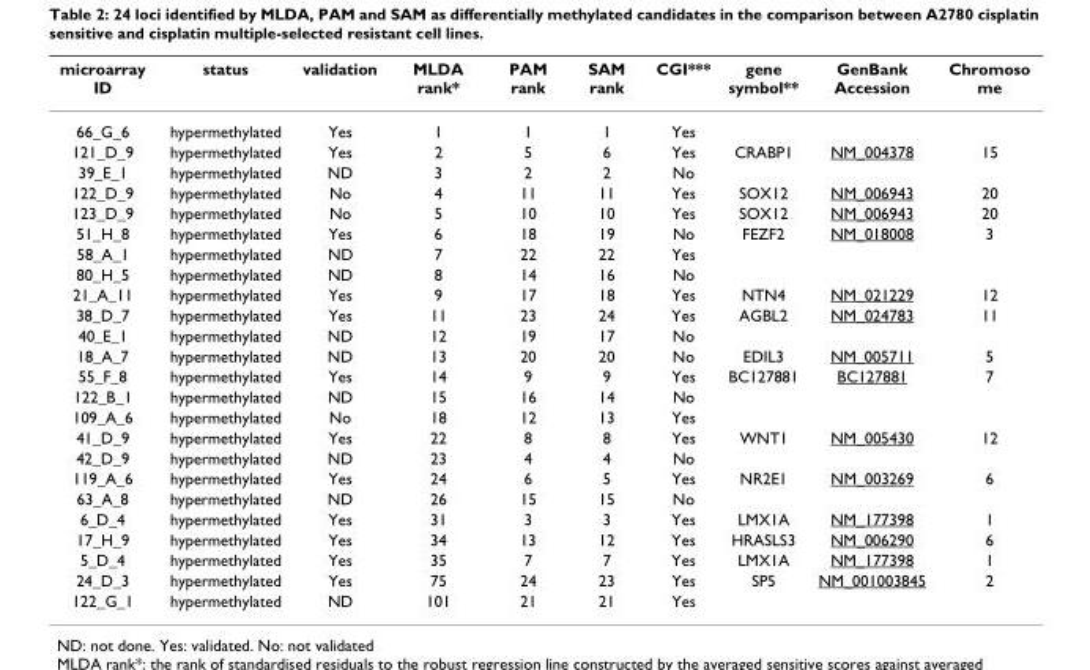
<table><thead><tr><td>microarray ID</td><td>status</td><td>validation</td><td>MLDA rank*</td><td>PAM rank</td><td>SAM rank</td><td>CGI***</td><td>gene symbol**</td><td>GenBank Accession</td><td>Chromoso me</td></tr></thead><tbody><tr><td>66_G_6</td><td>hypermethylated</td><td>Yes</td><td>1</td><td>1</td><td>1</td><td>Yes</td><td></td><td></td><td></td></tr><tr><td>121_D_9</td><td>hypermethylated</td><td>Yes</td><td>2</td><td>5</td><td>6</td><td>Yes</td><td>CRABP1</td><td>NM_004378</td><td>15</td></tr><tr><td>39_E_1</td><td>hypermethylated</td><td>ND</td><td>3</td><td>2</td><td>2</td><td>No</td><td></td><td></td><td></td></tr><tr><td>122_D_9</td><td>hypermethylated</td><td>No</td><td>4</td><td>11</td><td>11</td><td>Yes</td><td>SOX12</td><td>NM_006943</td><td>20</td></tr><tr><td>123_D_9</td><td>hypermethylated</td><td>No</td><td>5</td><td>10</td><td>10</td><td>Yes</td><td>SOX12</td><td>NM_006943</td><td>20</td></tr><tr><td>51_H_8</td><td>hypermethylated</td><td>Yes</td><td>6</td><td>18</td><td>19</td><td>No</td><td>FEZF2</td><td>NM_018008</td><td>3</td></tr><tr><td>58_A_1</td><td>hypermethylated</td><td>ND</td><td>7</td><td>22</td><td>22</td><td>Yes</td><td></td><td></td><td></td></tr><tr><td>80_H_5</td><td>hypermethylated</td><td>ND</td><td>8</td><td>14</td><td>16</td><td>No</td><td></td><td></td><td></td></tr><tr><td>21_A_11</td><td>hypermethylated</td><td>Yes</td><td>9</td><td>17</td><td>18</td><td>Yes</td><td>NTN4</td><td>NM_021229</td><td>12</td></tr><tr><td>38_D_7</td><td>hypermethylated</td><td>Yes</td><td>11</td><td>23</td><td>24</td><td>Yes</td><td>AGBL2</td><td>NM_024783</td><td>11</td></tr><tr><td>40_E_1</td><td>hypermethylated</td><td>ND</td><td>12</td><td>19</td><td>17</td><td>No</td><td></td><td></td><td></td></tr><tr><td>18_A_7</td><td>hypermethylated</td><td>ND</td><td>13</td><td>20</td><td>20</td><td>No</td><td>EDIL3</td><td>NM_005711</td><td>5</td></tr><tr><td>55_F_8</td><td>hypermethylated</td><td>Yes</td><td>14</td><td>9</td><td>9</td><td>Yes</td><td>BC127881</td><td>BC127881</td><td>7</td></tr><tr><td>122_B_1</td><td>hypermethylated</td><td>ND</td><td>15</td><td>16</td><td>14</td><td>No</td><td></td><td></td><td></td></tr><tr><td>109_A_6</td><td>hypermethylated</td><td>No</td><td>18</td><td>12</td><td>13</td><td>Yes</td><td></td><td></td><td></td></tr><tr><td>41_D_9</td><td>hypermethylated</td><td>Yes</td><td>22</td><td>8</td><td>8</td><td>Yes</td><td>WNT1</td><td>NM_005430</td><td>12</td></tr><tr><td>42_D_9</td><td>hypermethylated</td><td>ND</td><td>23</td><td>4</td><td>4</td><td>No</td><td></td><td></td><td></td></tr><tr><td>119_A_6</td><td>hypermethylated</td><td>Yes</td><td>24</td><td>6</td><td>5</td><td>Yes</td><td>NR2E1</td><td>NM_003269</td><td>6</td></tr><tr><td>63_A_8</td><td>hypermethylated</td><td>ND</td><td>26</td><td>15</td><td>15</td><td>No</td><td></td><td></td><td></td></tr><tr><td>6_D_4</td><td>hypermethylated</td><td>Yes</td><td>31</td><td>3</td><td>3</td><td>Yes</td><td>LMX1A</td><td>NM_177398</td><td>1</td></tr><tr><td>17_H_9</td><td>hypermethylated</td><td>Yes</td><td>34</td><td>13</td><td>12</td><td>Yes</td><td>HRASLS3</td><td>NM_006290</td><td>6</td></tr><tr><td>5_D_4</td><td>hypermethylated</td><td>Yes</td><td>35</td><td>7</td><td>7</td><td>Yes</td><td>LMX1A</td><td>NM_177398</td><td>1</td></tr><tr><td>24_D_3</td><td>hypermethylated</td><td>Yes</td><td>75</td><td>24</td><td>23</td><td>Yes</td><td>SP5</td><td>NM_001003845</td><td>2</td></tr><tr><td>122_G_1</td><td>hypermethylated</td><td>ND</td><td>101</td><td>21</td><td>21</td><td>Yes</td><td></td><td></td><td></td></tr></tbody></table>